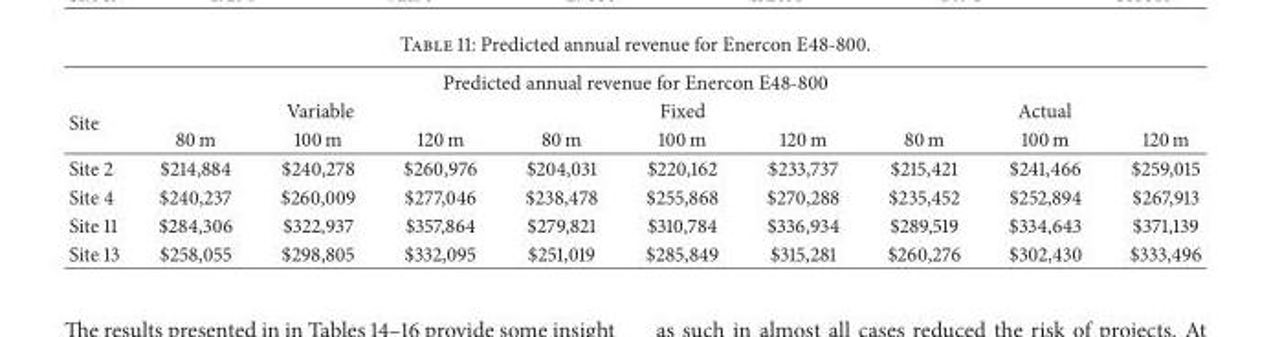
<table><thead><tr><td colspan="10">Predicted annual revenue for Enercon E48-800</td></tr><tr><td rowspan="2">Site</td><td colspan="3">Variable</td><td colspan="3">Fixed</td><td colspan="3">Actual</td></tr><tr><td>80 m</td><td>100 m</td><td>120 m</td><td>80 m</td><td>100 m</td><td>120 m</td><td>80 m</td><td>100 m</td><td>120 m</td></tr></thead><tbody><tr><td>Site 2</td><td>$214,884</td><td>$240,278</td><td>$260,976</td><td>$204,031</td><td>$220,162</td><td>$233,737</td><td>$215,421</td><td>$241,466</td><td>$259,015</td></tr><tr><td>Site 4</td><td>$240,237</td><td>$260,009</td><td>$277,046</td><td>$238,478</td><td>$255,868</td><td>$270,288</td><td>$235,452</td><td>$252,894</td><td>$267,913</td></tr><tr><td>Site 11</td><td>$284,306</td><td>$322,937</td><td>$357,864</td><td>$279,821</td><td>$310,784</td><td>$336,934</td><td>$289,519</td><td>$334,643</td><td>$371,139</td></tr><tr><td>Site 13</td><td>$258,055</td><td>$298,805</td><td>$332,095</td><td>$251,019</td><td>$285,849</td><td>$315,281</td><td>$260,276</td><td>$302,430</td><td>$333,496</td></tr></tbody></table>